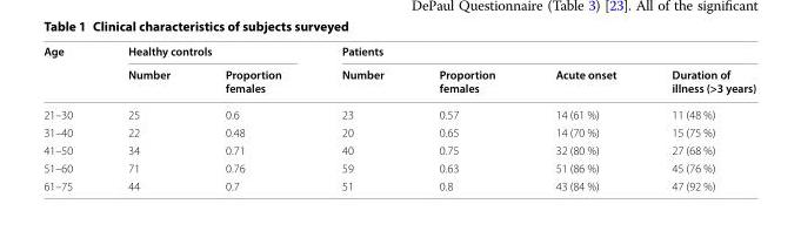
<table><thead><tr><td rowspan="2">Age</td><td colspan="2">Healthy controls</td><td colspan="4">Patients</td></tr><tr><td>Number</td><td>Proportion females</td><td>Number</td><td>Proportion females</td><td>Acute onset</td><td>Duration of illness (&gt;3 years)</td></tr></thead><tbody><tr><td>21–30</td><td>25</td><td>0.6</td><td>23</td><td>0.57</td><td>14 (61 %)</td><td>11 (48 %)</td></tr><tr><td>31–40</td><td>22</td><td>0.48</td><td>20</td><td>0.65</td><td>14 (70 %)</td><td>15 (75 %)</td></tr><tr><td>41–50</td><td>34</td><td>0.71</td><td>40</td><td>0.75</td><td>32 (80 %)</td><td>27 (68 %)</td></tr><tr><td>51–60</td><td>71</td><td>0.76</td><td>59</td><td>0.63</td><td>51 (86 %)</td><td>45 (76 %)</td></tr><tr><td>61–75</td><td>44</td><td>0.7</td><td>51</td><td>0.8</td><td>43 (84 %)</td><td>47 (92 %)</td></tr></tbody></table>